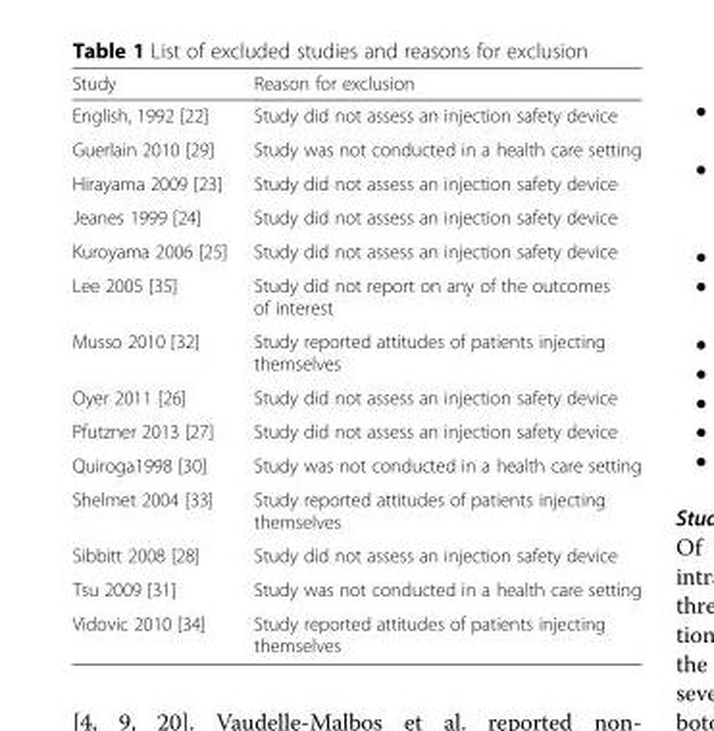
<table><thead><tr><td>Study</td><td>Reason for exclusion</td></tr></thead><tbody><tr><td>English, 1992 [22]</td><td>Study did not assess an injection safety device</td></tr><tr><td>Guerlain 2010 [29]</td><td>Study was not conducted in a health care setting</td></tr><tr><td>Hirayama 2009 [23]</td><td>Study did not assess an injection safety device</td></tr><tr><td>Jeanes 1999 [24]</td><td>Study did not assess an injection safety device</td></tr><tr><td>Kuroyama 2006 [25]</td><td>Study did not assess an injection safety device</td></tr><tr><td>Lee 2005 [35]</td><td>Study did not report on any of the outcomes of interest</td></tr><tr><td>Musso 2010 [32]</td><td>Study reported attitudes of patients injecting themselves</td></tr><tr><td>Oyer 2011 [26]</td><td>Study did not assess an injection safety device</td></tr><tr><td>Pfutzner 2013 [27]</td><td>Study did not assess an injection safety device</td></tr><tr><td>Quiroga1998 [30]</td><td>Study was not conducted in a health care setting</td></tr><tr><td>Shelmet 2004 [33]</td><td>Study reported attitudes of patients injecting themselves</td></tr><tr><td>Sibbitt 2008 [28]</td><td>Study did not assess an injection safety device</td></tr><tr><td>Tsu 2009 [31]</td><td>Study was not conducted in a health care setting</td></tr><tr><td>Vidovic 2010 [34]</td><td>Study reported attitudes of patients injecting themselves</td></tr></tbody></table>